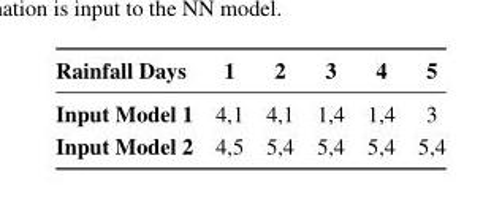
<table><thead><tr><td>Rainfall Days</td><td>1</td><td>2</td><td>3</td><td>4</td><td>5</td></tr></thead><tbody><tr><td>Input Model 1</td><td>4,1</td><td>4,1</td><td>1,4</td><td>1,4</td><td>3</td></tr><tr><td>Input Model 2</td><td>4,5</td><td>5,4</td><td>5,4</td><td>5,4</td><td>5,4</td></tr></tbody></table>